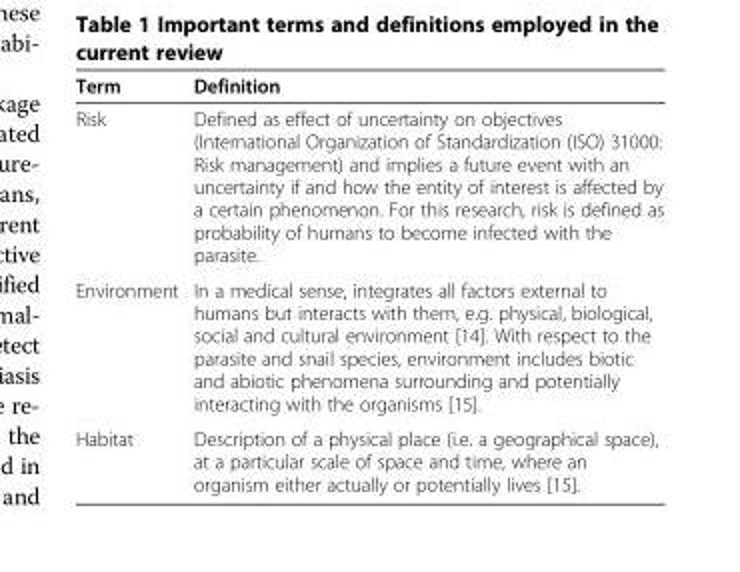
<table><thead><tr><td>Term</td><td>Definition</td></tr></thead><tbody><tr><td>Risk</td><td>Defined as effect of uncertainty on objectives (International Organization of Standardization (ISO) 31000: Risk management) and implies a future event with an uncertainty if and how the entity of interest is affected by a certain phenomenon. For this research, risk is defined as probability of humans to become infected with the parasite.</td></tr><tr><td>Environment</td><td>In a medical sense, integrates all factors external to humans but interacts with them, e.g. physical, biological, social and cultural environment [14]. With respect to the parasite and snail species, environment includes biotic and abiotic phenomena surrounding and potentially interacting with the organisms [15].</td></tr><tr><td>Habitat</td><td>Description of a physical place (i.e. a geographical space), at a particular scale of space and time, where an organism either actually or potentially lives [15].</td></tr></tbody></table>